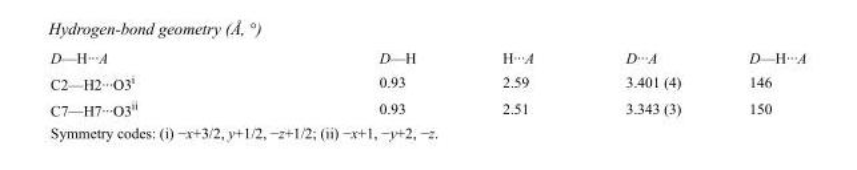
<table><tbody><tr><td>D—H···A</td><td>D—H</td><td>H···A</td><td>D···A</td><td>D—H···A</td></tr><tr><td>C2—H2···O3<sup>i</sup></td><td>0.93</td><td>2.59</td><td>3.401 (4)</td><td>146</td></tr><tr><td>C7—H7···O3<sup>ii</sup></td><td>0.93</td><td>2.51</td><td>3.343 (3)</td><td>150</td></tr></tbody></table>